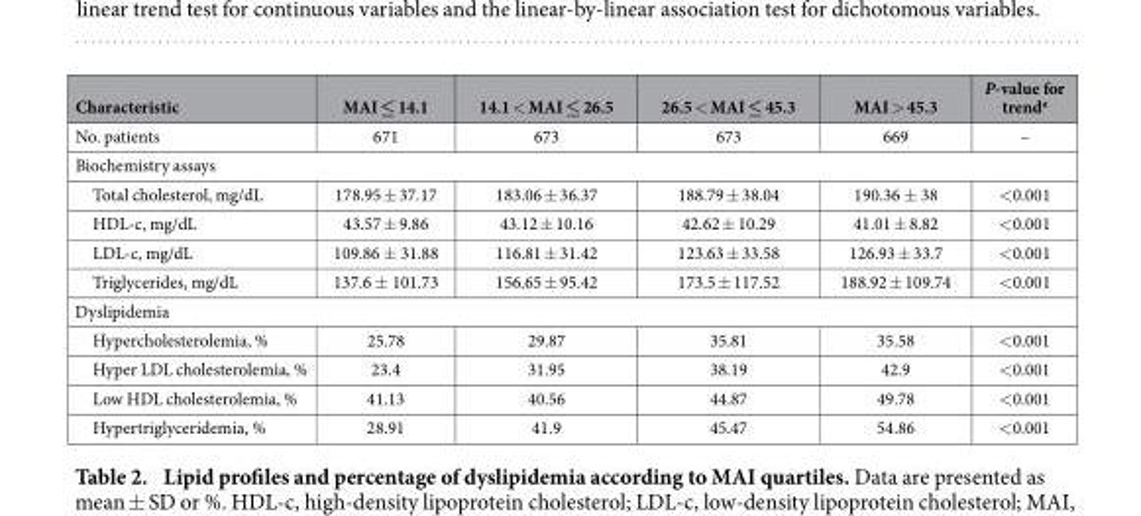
<table><thead><tr><td>Characteristic</td><td>MAI ≤ 14.1</td><td>14.1 &lt; MAI ≤ 26.5</td><td>26.5 &lt; MAI ≤ 45.3</td><td>MAI &gt; 45.3</td><td>P-value for trend<sup>a</sup></td></tr></thead><tbody><tr><td>No. patients</td><td>671</td><td>673</td><td>673</td><td>669</td><td>–</td></tr><tr><td colspan="6">Biochemistry assays</td></tr><tr><td>Total cholesterol, mg/dL</td><td>178.95 ± 37.17</td><td>183.06 ± 36.37</td><td>188.79 ± 38.04</td><td>190.36 ± 38</td><td>&lt; 0.001</td></tr><tr><td>HDL-c, mg/dL</td><td>43.57 ± 9.86</td><td>43.12 ± 10.16</td><td>42.62 ± 10.29</td><td>41.01 ± 8.82</td><td>&lt; 0.001</td></tr><tr><td>LDL-c, mg/dL</td><td>109.86 ± 31.88</td><td>116.81 ± 31.42</td><td>123.63 ± 33.58</td><td>126.93 ± 33.7</td><td>&lt; 0.001</td></tr><tr><td>Triglycerides, mg/dL</td><td>137.6 ± 101.73</td><td>156.65 ± 95.42</td><td>173.5 ± 117.52</td><td>188.92 ± 109.74</td><td>&lt; 0.001</td></tr><tr><td colspan="6">Dyslipidemia</td></tr><tr><td>Hypercholesterolemia, %</td><td>25.78</td><td>29.87</td><td>35.81</td><td>35.58</td><td>&lt; 0.001</td></tr><tr><td>Hyper LDL cholesterolemia, %</td><td>23.4</td><td>31.95</td><td>38.19</td><td>42.9</td><td>&lt; 0.001</td></tr><tr><td>Low HDL cholesterolemia, %</td><td>41.13</td><td>40.56</td><td>44.87</td><td>49.78</td><td>&lt; 0.001</td></tr><tr><td>Hypertriglyceridemia, %</td><td>28.91</td><td>41.9</td><td>45.47</td><td>54.86</td><td>&lt; 0.001</td></tr></tbody></table>